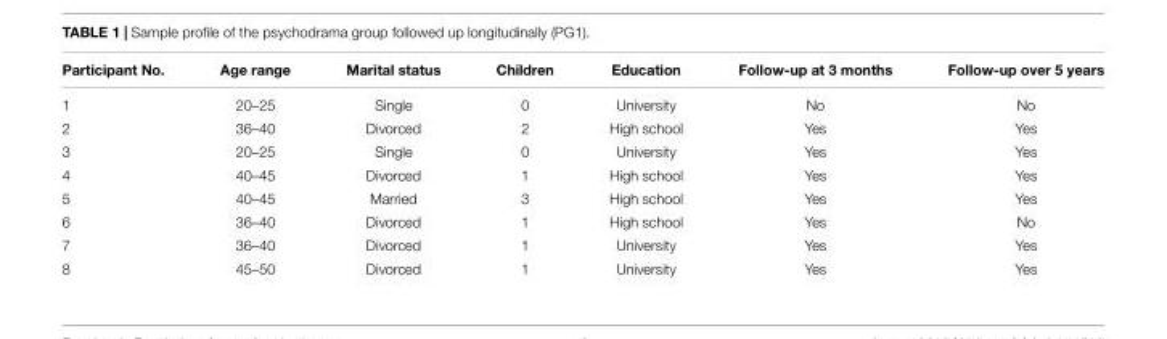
<table><thead><tr><td>Participant No.</td><td>Age range</td><td>Marital status</td><td>Children</td><td>Education</td><td>Follow-up at 3 months</td><td>Follow-up over 5 years</td></tr></thead><tbody><tr><td>1</td><td>20–25</td><td>Single</td><td>0</td><td>University</td><td>No</td><td>No</td></tr><tr><td>2</td><td>36–40</td><td>Divorced</td><td>2</td><td>High school</td><td>Yes</td><td>Yes</td></tr><tr><td>3</td><td>20–25</td><td>Single</td><td>0</td><td>University</td><td>Yes</td><td>Yes</td></tr><tr><td>4</td><td>40–45</td><td>Divorced</td><td>1</td><td>High school</td><td>Yes</td><td>Yes</td></tr><tr><td>5</td><td>40–45</td><td>Married</td><td>3</td><td>High school</td><td>Yes</td><td>Yes</td></tr><tr><td>6</td><td>36–40</td><td>Divorced</td><td>1</td><td>High school</td><td>Yes</td><td>No</td></tr><tr><td>7</td><td>36–40</td><td>Divorced</td><td>1</td><td>University</td><td>Yes</td><td>Yes</td></tr><tr><td>8</td><td>45–50</td><td>Divorced</td><td>1</td><td>University</td><td>Yes</td><td>Yes</td></tr></tbody></table>